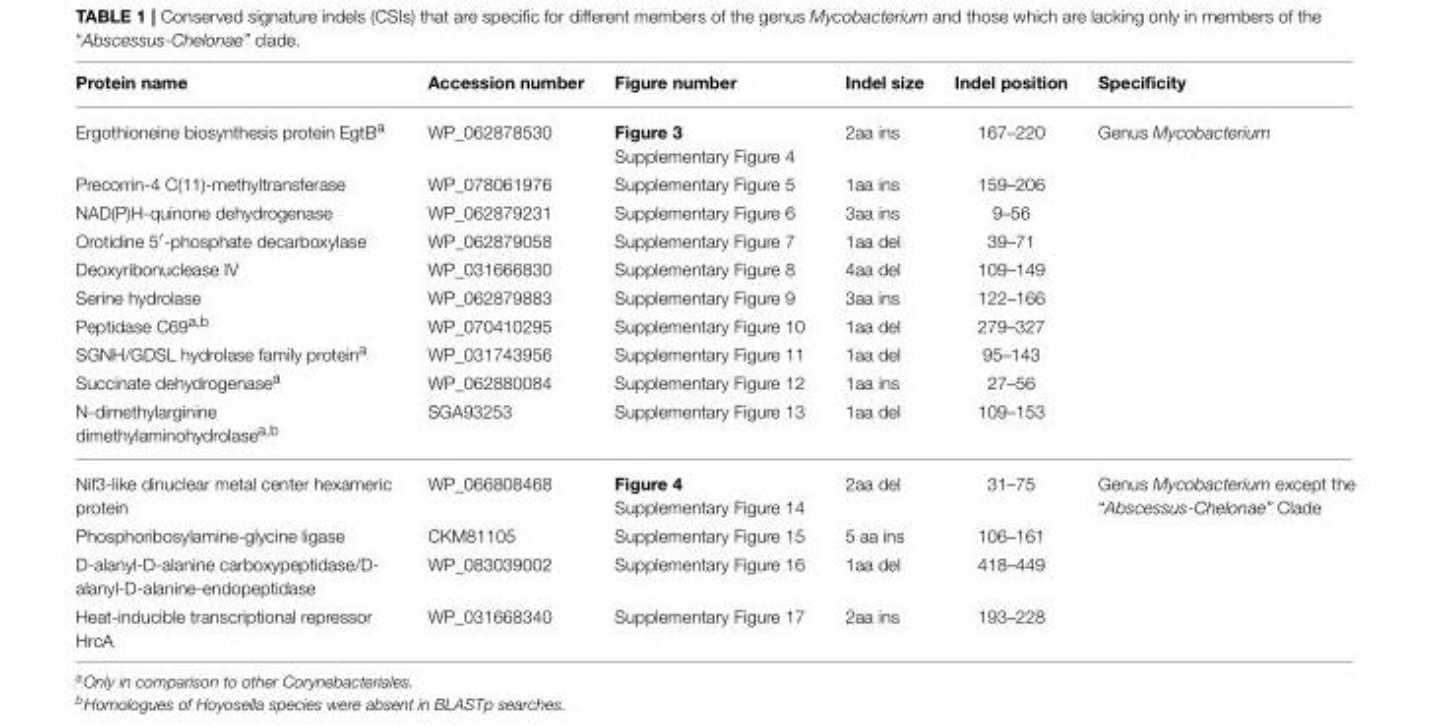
<table><thead><tr><td>Protein name</td><td>Accession number</td><td>Figure number</td><td>Indel size</td><td>Indel position</td><td>Specificity</td></tr></thead><tbody><tr><td>Ergothioneine biosynthesis protein EgtB<sup>a</sup></td><td>WP_062878530</td><td>Figure 3 Supplementary Figure 4</td><td>2aa ins</td><td>167–220</td><td>Genus Mycobacterium</td></tr><tr><td>Precorrin-4 C(11)-methyltransferase</td><td>WP_078061976</td><td>Supplementary Figure 5</td><td>1aa ins</td><td>159–206</td><td></td></tr><tr><td>NAD(P)H-quinone dehydrogenase</td><td>WP_062879231</td><td>Supplementary Figure 6</td><td>3aa ins</td><td>9–56</td><td></td></tr><tr><td>Orotidine 5′-phosphate decarboxylase</td><td>WP_062879058</td><td>Supplementary Figure 7</td><td>1aa del</td><td>39–71</td><td></td></tr><tr><td>Deoxyribonuclease IV</td><td>WP_031666830</td><td>Supplementary Figure 8</td><td>4aa del</td><td>109–149</td><td></td></tr><tr><td>Serine hydrolase</td><td>WP_062879883</td><td>Supplementary Figure 9</td><td>3aa ins</td><td>122–166</td><td></td></tr><tr><td>Peptidase C69<sup>a,b</sup></td><td>WP_070410295</td><td>Supplementary Figure 10</td><td>1aa del</td><td>279–327</td><td></td></tr><tr><td>SGNH/GDSL hydrolase family protein<sup>a</sup></td><td>WP_031743956</td><td>Supplementary Figure 11</td><td>1aa del</td><td>95–143</td><td></td></tr><tr><td>Succinate dehydrogenase<sup>a</sup></td><td>WP_062880084</td><td>Supplementary Figure 12</td><td>1aa ins</td><td>27–56</td><td></td></tr><tr><td>N-dimethylarginine dimethylaminohydrolase<sup>a,b</sup></td><td>SGA93253</td><td>Supplementary Figure 13</td><td>1aa del</td><td>109–153</td><td></td></tr><tr><td>Nif3-like dinuclear metal center hexameric protein</td><td>WP_066808468</td><td>Figure 4 Supplementary Figure 14</td><td>2aa del</td><td>31–75</td><td>Genus Mycobacterium except the “Abscessus-Chelonae” Clade</td></tr><tr><td>Phosphoribosylamine-glycine ligase</td><td>CKM81105</td><td>Supplementary Figure 15</td><td>5 aa ins</td><td>106–161</td><td></td></tr><tr><td>D-alanyl-D-alanine carboxypeptidase/D- alanyl-D-alanine-endopeptidase</td><td>WP_083039002</td><td>Supplementary Figure 16</td><td>1aa del</td><td>418–449</td><td></td></tr><tr><td>Heat-inducible transcriptional repressor HrcA</td><td>WP_031668340</td><td>Supplementary Figure 17</td><td>2aa ins</td><td>193–228</td><td></td></tr></tbody></table>